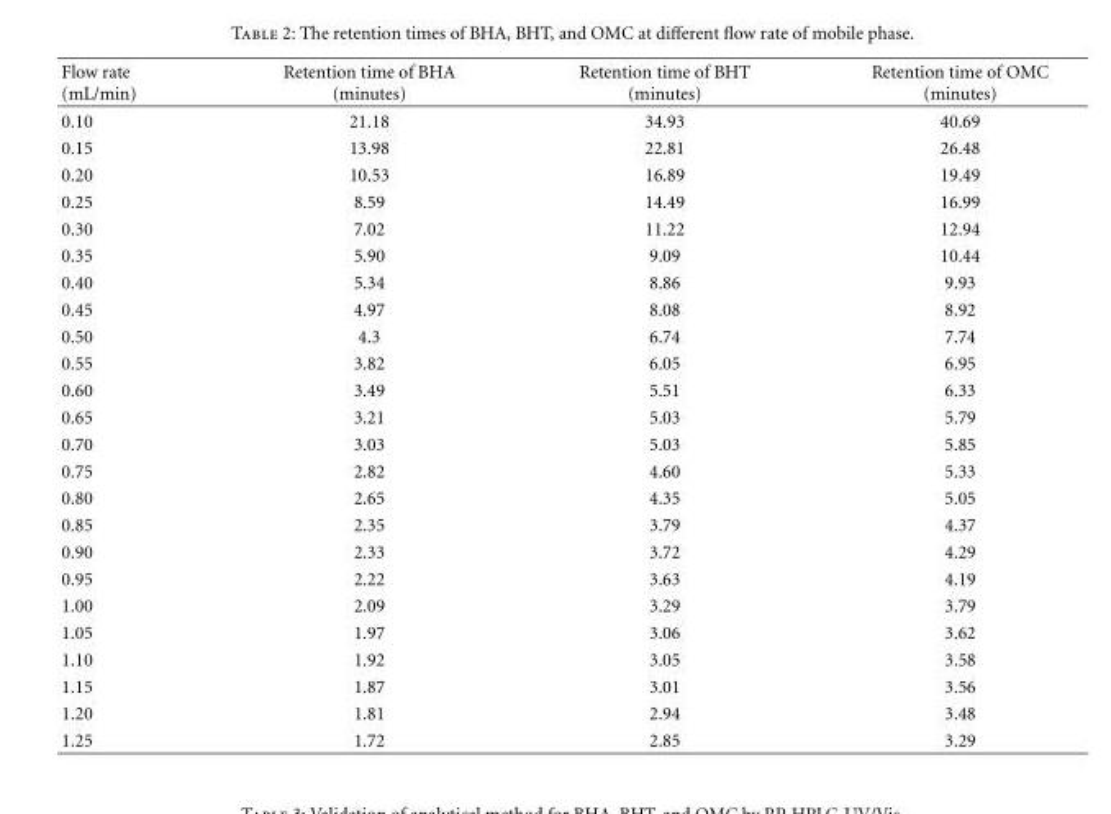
<table><thead><tr><td>Flow rate (mL/min)</td><td>Retention time of BHA (minutes)</td><td>Retention time of BHT (minutes)</td><td>Retention time of OMC (minutes)</td></tr></thead><tbody><tr><td>0.10</td><td>21.18</td><td>34.93</td><td>40.69</td></tr><tr><td>0.15</td><td>13.98</td><td>22.81</td><td>26.48</td></tr><tr><td>0.20</td><td>10.53</td><td>16.89</td><td>19.49</td></tr><tr><td>0.25</td><td>8.59</td><td>14.49</td><td>16.99</td></tr><tr><td>0.30</td><td>7.02</td><td>11.22</td><td>12.94</td></tr><tr><td>0.35</td><td>5.90</td><td>9.09</td><td>10.44</td></tr><tr><td>0.40</td><td>5.34</td><td>8.86</td><td>9.93</td></tr><tr><td>0.45</td><td>4.97</td><td>8.08</td><td>8.92</td></tr><tr><td>0.50</td><td>4.3</td><td>6.74</td><td>7.74</td></tr><tr><td>0.55</td><td>3.82</td><td>6.05</td><td>6.95</td></tr><tr><td>0.60</td><td>3.49</td><td>5.51</td><td>6.33</td></tr><tr><td>0.65</td><td>3.21</td><td>5.03</td><td>5.79</td></tr><tr><td>0.70</td><td>3.03</td><td>5.03</td><td>5.85</td></tr><tr><td>0.75</td><td>2.82</td><td>4.60</td><td>5.33</td></tr><tr><td>0.80</td><td>2.65</td><td>4.35</td><td>5.05</td></tr><tr><td>0.85</td><td>2.35</td><td>3.79</td><td>4.37</td></tr><tr><td>0.90</td><td>2.33</td><td>3.72</td><td>4.29</td></tr><tr><td>0.95</td><td>2.22</td><td>3.63</td><td>4.19</td></tr><tr><td>1.00</td><td>2.09</td><td>3.29</td><td>3.79</td></tr><tr><td>1.05</td><td>1.97</td><td>3.06</td><td>3.62</td></tr><tr><td>1.10</td><td>1.92</td><td>3.05</td><td>3.58</td></tr><tr><td>1.15</td><td>1.87</td><td>3.01</td><td>3.56</td></tr><tr><td>1.20</td><td>1.81</td><td>2.94</td><td>3.48</td></tr><tr><td>1.25</td><td>1.72</td><td>2.85</td><td>3.29</td></tr></tbody></table>